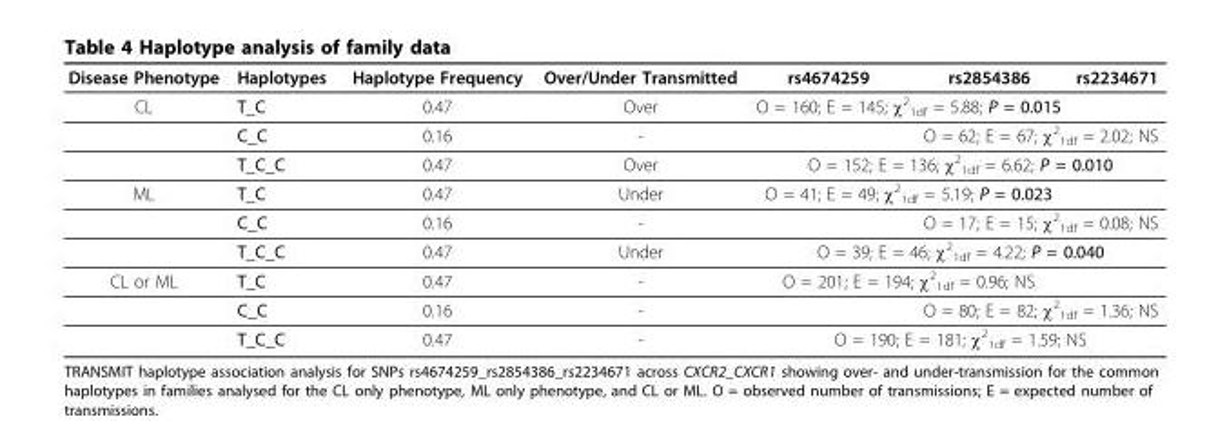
<table><thead><tr><td>Disease Phenotype</td><td>Haplotypes</td><td>Haplotype Frequency</td><td>Over/Under Transmitted</td><td>rs4674259</td><td>rs2854386</td><td>rs2234671</td></tr></thead><tbody><tr><td rowspan="3">CL</td><td>T_C</td><td>0.47</td><td>Over</td><td colspan="2">O = 160; E = 145; χ<sup>2</sup> <sub>1df</sub> = 5.88; P = 0.015</td><td></td></tr><tr><td>C_C</td><td>0.16</td><td>-</td><td></td><td colspan="2">O = 62; E = 67; χ<sup>2</sup> <sub>1df</sub> = 2.02; NS</td></tr><tr><td>T_C_C</td><td>0.47</td><td>Over</td><td colspan="3">O = 152; E = 136; χ<sup>2</sup> <sub>1df</sub> = 6.62; P = 0.010</td></tr><tr><td rowspan="3">ML</td><td>T_C</td><td>0.47</td><td>Under</td><td colspan="2">O = 41; E = 49; χ<sup>2</sup> <sub>1df</sub> = 5.19; P = 0.023</td><td></td></tr><tr><td>C_C</td><td>0.16</td><td>-</td><td></td><td colspan="2">O = 17; E = 15; χ<sup>2</sup> <sub>1df</sub> = 0.08; NS</td></tr><tr><td>T_C_C</td><td>0.47</td><td>Under</td><td colspan="3">O = 39; E = 46; χ<sup>2</sup> <sub>1df</sub> = 4.22; P = 0.040</td></tr><tr><td rowspan="3">CL or ML</td><td>T_C</td><td>0.47</td><td>-</td><td colspan="2">O = 201; E = 194; χ<sup>2</sup> <sub>1df</sub> = 0.96; NS</td><td></td></tr><tr><td>C_C</td><td>0.16</td><td>-</td><td></td><td colspan="2">O = 80; E = 82; χ<sup>2</sup> <sub>1df</sub> = 1.36; NS</td></tr><tr><td>T_C_C</td><td>0.47</td><td>-</td><td colspan="3">O = 190; E = 181; χ<sup>2</sup> <sub>1df</sub> = 1.59; NS</td></tr></tbody></table>